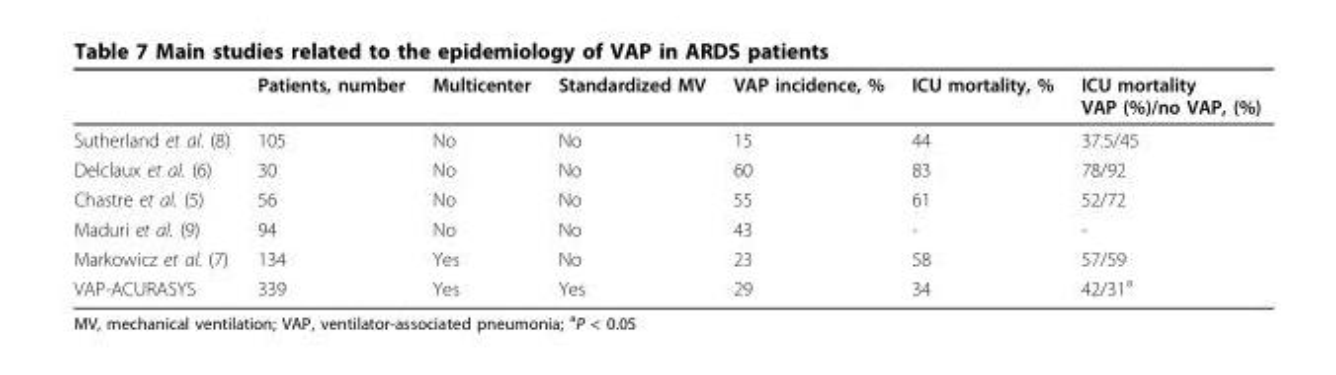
<table><thead><tr><td></td><td>Patients, number</td><td>Multicenter</td><td>Standardized MV</td><td>VAP incidence, %</td><td>ICU mortality, %</td><td>ICU mortality VAP (%)/no VAP, (%)</td></tr></thead><tbody><tr><td>Sutherland et al. (8)</td><td>105</td><td>No</td><td>No</td><td>15</td><td>44</td><td>37.5/45</td></tr><tr><td>Delclaux et al. (6)</td><td>30</td><td>No</td><td>No</td><td>60</td><td>83</td><td>78/92</td></tr><tr><td>Chastre et al. (5)</td><td>56</td><td>No</td><td>No</td><td>55</td><td>61</td><td>52/72</td></tr><tr><td>Maduri et al. (9)</td><td>94</td><td>No</td><td>No</td><td>43</td><td>-</td><td>-</td></tr><tr><td>Markowicz et al. (7)</td><td>134</td><td>Yes</td><td>No</td><td>23</td><td>58</td><td>57/59</td></tr><tr><td>VAP-ACURASYS</td><td>339</td><td>Yes</td><td>Yes</td><td>29</td><td>34</td><td>42/31<sup>a</sup></td></tr></tbody></table>